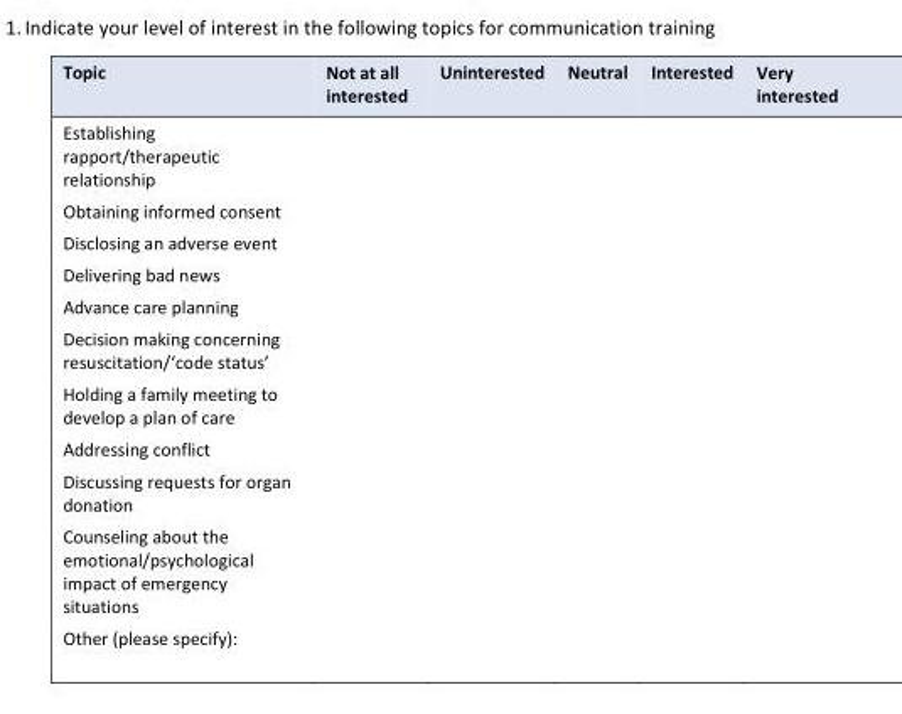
<table><thead><tr><td>Topic</td><td>Not at all interested</td><td>Uninterested</td><td>Neutral</td><td>Interested</td><td>Very interested</td></tr></thead><tbody><tr><td colspan="6">Establishing rapport/therapeutic relationship</td></tr><tr><td colspan="6">Obtaining informed consent</td></tr><tr><td colspan="6">Disclosing an adverse event</td></tr><tr><td colspan="6">Delivering bad news</td></tr><tr><td colspan="6">Advance care planning</td></tr><tr><td colspan="6">Decision making concerning resuscitation/‘code status’</td></tr><tr><td colspan="6">Holding a family meeting to develop a plan of care</td></tr><tr><td colspan="6">Addressing conflict</td></tr><tr><td colspan="6">Discussing requests for organ donation</td></tr><tr><td colspan="6">Counseling about the emotional/psychological impact of emergency situations</td></tr><tr><td>Other (please specify):</td><td></td><td></td><td></td><td></td><td></td></tr></tbody></table>